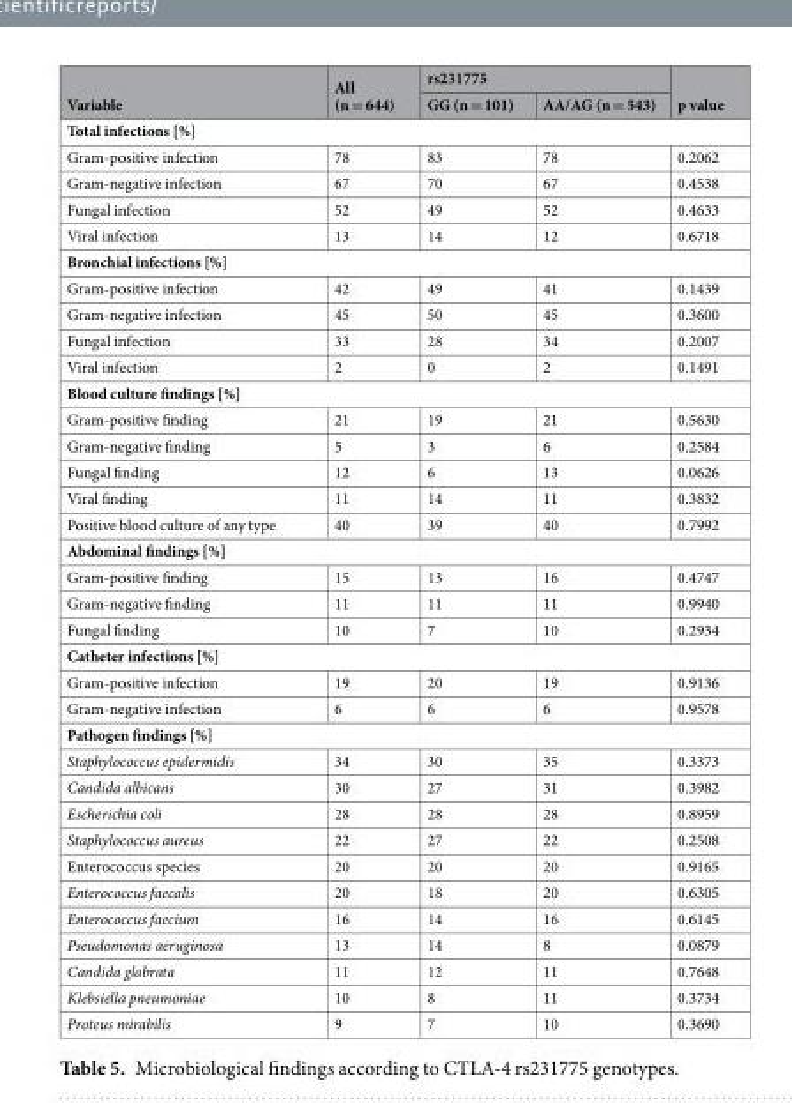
<table><thead><tr><td rowspan="2">Variable</td><td rowspan="2">All (n = 644)</td><td colspan="2">rs231775</td><td rowspan="2">p value</td></tr><tr><td>GG (n = 101)</td><td>AA/AG (n = 543)</td></tr></thead><tbody><tr><td colspan="5">Total infections [%]</td></tr><tr><td>Gram-positive infection</td><td>78</td><td>83</td><td>78</td><td>0.2062</td></tr><tr><td>Gram-negative infection</td><td>67</td><td>70</td><td>67</td><td>0.4538</td></tr><tr><td>Fungal infection</td><td>52</td><td>49</td><td>52</td><td>0.4633</td></tr><tr><td>Viral infection</td><td>13</td><td>14</td><td>12</td><td>0.6718</td></tr><tr><td colspan="5">Bronchial infections [%]</td></tr><tr><td>Gram-positive infection</td><td>42</td><td>49</td><td>41</td><td>0.1439</td></tr><tr><td>Gram-negative infection</td><td>45</td><td>50</td><td>45</td><td>0.3600</td></tr><tr><td>Fungal infection</td><td>33</td><td>28</td><td>34</td><td>0.2007</td></tr><tr><td>Viral infection</td><td>2</td><td>0</td><td>2</td><td>0.1491</td></tr><tr><td colspan="5">Blood culture findings [%]</td></tr><tr><td>Gram-positive finding</td><td>21</td><td>19</td><td>21</td><td>0.5630</td></tr><tr><td>Gram-negative finding</td><td>5</td><td>3</td><td>6</td><td>0.2584</td></tr><tr><td>Fungal finding</td><td>12</td><td>6</td><td>13</td><td>0.0626</td></tr><tr><td>Viral finding</td><td>11</td><td>14</td><td>11</td><td>0.3832</td></tr><tr><td>Positive blood culture of any type</td><td>40</td><td>39</td><td>40</td><td>0.7992</td></tr><tr><td colspan="5">Abdominal findings [%]</td></tr><tr><td>Gram-positive finding</td><td>15</td><td>13</td><td>16</td><td>0.4747</td></tr><tr><td>Gram-negative finding</td><td>11</td><td>11</td><td>11</td><td>0.9940</td></tr><tr><td>Fungal finding</td><td>10</td><td>7</td><td>10</td><td>0.2934</td></tr><tr><td colspan="5">Catheter infections [%]</td></tr><tr><td>Gram-positive infection</td><td>19</td><td>20</td><td>19</td><td>0.9136</td></tr><tr><td>Gram-negative infection</td><td>6</td><td>6</td><td>6</td><td>0.9578</td></tr><tr><td colspan="5">Pathogen findings [%]</td></tr><tr><td>Staphylococcus epidermidis</td><td>34</td><td>30</td><td>35</td><td>0.3373</td></tr><tr><td>Candida albicans</td><td>30</td><td>27</td><td>31</td><td>0.3982</td></tr><tr><td>Escherichia coli</td><td>28</td><td>28</td><td>28</td><td>0.8959</td></tr><tr><td>Staphylococcus aureus</td><td>22</td><td>27</td><td>22</td><td>0.2508</td></tr><tr><td>Enterococcus species</td><td>20</td><td>20</td><td>20</td><td>0.9165</td></tr><tr><td>Enterococcus faecalis</td><td>20</td><td>18</td><td>20</td><td>0.6305</td></tr><tr><td>Enterococcus faecium</td><td>16</td><td>14</td><td>16</td><td>0.6145</td></tr><tr><td>Pseudomonas aeruginosa</td><td>13</td><td>14</td><td>8</td><td>0.0879</td></tr><tr><td>Candida glabrata</td><td>11</td><td>12</td><td>11</td><td>0.7648</td></tr><tr><td>Klebsiella pneumoniae</td><td>10</td><td>8</td><td>11</td><td>0.3734</td></tr><tr><td>Proteus mirabilis</td><td>9</td><td>7</td><td>10</td><td>0.3690</td></tr></tbody></table>